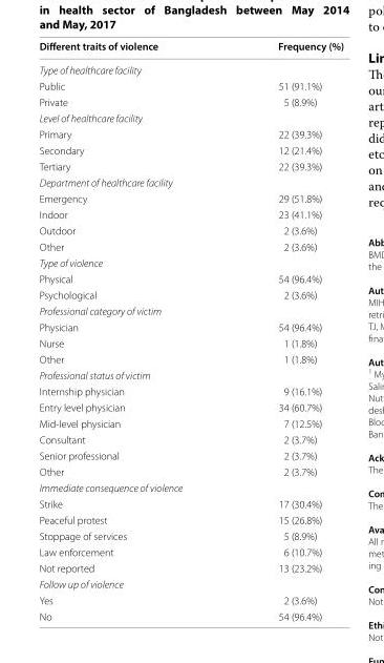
<table><thead><tr><td>Different traits of violence</td><td>Frequency (%)</td></tr></thead><tbody><tr><td colspan="2">Type of healthcare facility</td></tr><tr><td>Public</td><td>51 (91.1%)</td></tr><tr><td>Private</td><td>5 (8.9%)</td></tr><tr><td colspan="2">Level of healthcare facility</td></tr><tr><td>Primary</td><td>22 (39.3%)</td></tr><tr><td>Secondary</td><td>12 (21.4%)</td></tr><tr><td>Tertiary</td><td>22 (39.3%)</td></tr><tr><td colspan="2">Department of healthcare facility</td></tr><tr><td>Emergency</td><td>29 (51.8%)</td></tr><tr><td>Indoor</td><td>23 (41.1%)</td></tr><tr><td>Outdoor</td><td>2 (3.6%)</td></tr><tr><td>Other</td><td>2 (3.6%)</td></tr><tr><td colspan="2">Type of violence</td></tr><tr><td>Physical</td><td>54 (96.4%)</td></tr><tr><td>Psychological</td><td>2 (3.6%)</td></tr><tr><td colspan="2">Professional category of victim</td></tr><tr><td>Physician</td><td>54 (96.4%)</td></tr><tr><td>Nurse</td><td>1 (1.8%)</td></tr><tr><td>Other</td><td>1 (1.8%)</td></tr><tr><td colspan="2">Professional status of victim</td></tr><tr><td>Internship physician</td><td>9 (16.1%)</td></tr><tr><td>Entry level physician</td><td>34 (60.7%)</td></tr><tr><td>Mid-level physician</td><td>7 (12.5%)</td></tr><tr><td>Consultant</td><td>2 (3.7%)</td></tr><tr><td>Senior professional</td><td>2 (3.7%)</td></tr><tr><td>Other</td><td>2 (3.7%)</td></tr><tr><td colspan="2">Immediate consequence of violence</td></tr><tr><td>Strike</td><td>17 (30.4%)</td></tr><tr><td>Peaceful protest</td><td>15 (26.8%)</td></tr><tr><td>Stoppage of services</td><td>5 (8.9%)</td></tr><tr><td>Law enforcement</td><td>6 (10.7%)</td></tr><tr><td>Not reported</td><td>13 (23.2%)</td></tr><tr><td colspan="2">Follow up of violence</td></tr><tr><td>Yes</td><td>2 (3.6%)</td></tr><tr><td>No</td><td>54 (96.4%)</td></tr></tbody></table>